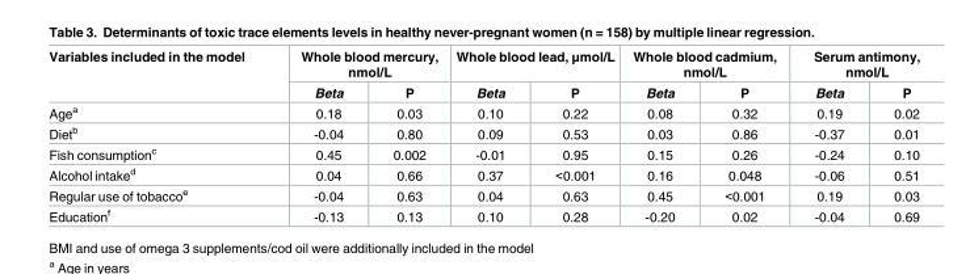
<table><thead><tr><td rowspan="2">Variables included in the model</td><td colspan="2">Whole blood mercury, nmol/L</td><td colspan="2">Whole blood lead, μmol/L</td><td colspan="2">Whole blood cadmium, nmol/L</td><td colspan="2">Serum antimony, nmol/L</td></tr><tr><td>Beta</td><td>P</td><td>Beta</td><td>P</td><td>Beta</td><td>P</td><td>Beta</td><td>P</td></tr></thead><tbody><tr><td>Age<sup>a</sup></td><td>0.18</td><td>0.03</td><td>0.10</td><td>0.22</td><td>0.08</td><td>0.32</td><td>0.19</td><td>0.02</td></tr><tr><td>Diet<sup>b</sup></td><td>-0.04</td><td>0.80</td><td>0.09</td><td>0.53</td><td>0.03</td><td>0.86</td><td>-0.37</td><td>0.01</td></tr><tr><td>Fish consumption<sup>c</sup></td><td>0.45</td><td>0.002</td><td>-0.01</td><td>0.95</td><td>0.15</td><td>0.26</td><td>-0.24</td><td>0.10</td></tr><tr><td>Alcohol intake<sup>d</sup></td><td>0.04</td><td>0.66</td><td>0.37</td><td>&lt;0.001</td><td>0.16</td><td>0.048</td><td>-0.06</td><td>0.51</td></tr><tr><td>Regular use of tobacco<sup>e</sup></td><td>-0.04</td><td>0.63</td><td>0.04</td><td>0.63</td><td>0.45</td><td>&lt;0.001</td><td>0.19</td><td>0.03</td></tr><tr><td>Education<sup>f</sup></td><td>-0.13</td><td>0.13</td><td>0.10</td><td>0.28</td><td>-0.20</td><td>0.02</td><td>-0.04</td><td>0.69</td></tr></tbody></table>